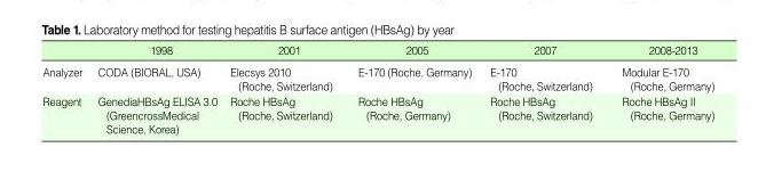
<table><thead><tr><td></td><td>1998</td><td>2001</td><td>2005</td><td>2007</td><td>2008-2013</td></tr></thead><tbody><tr><td>Analyzer</td><td>CODA (BIORAL, USA)</td><td>Elecsys 2010 (Roche, Switzerland)</td><td>E-170 (Roche, Germany)</td><td>E-170 (Roche, Switzerland)</td><td>Modular E-170 (Roche, Germany)</td></tr><tr><td>Reagent</td><td>GenediaHBsAg ELISA 3.0 (GreencrossMedical Science, Korea)</td><td>Roche HBsAg (Roche, Switzerland)</td><td>Roche HBsAg (Roche, Germany)</td><td>Roche HBsAg (Roche, Switzerland)</td><td>Roche HBsAg II (Roche, Germany)</td></tr></tbody></table>